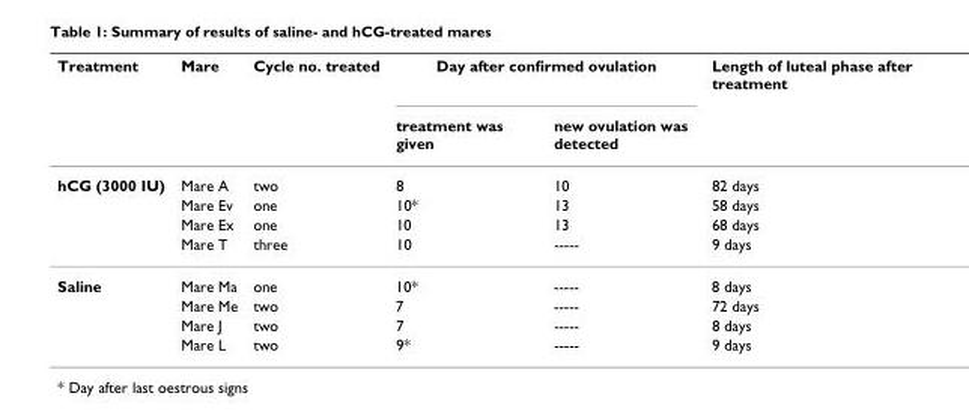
<table><thead><tr><td rowspan="2">Treatment</td><td rowspan="2">Mare</td><td rowspan="2">Cycle no. treated</td><td colspan="2">Day after confirmed ovulation</td><td rowspan="2">Length of luteal phase after treatment</td></tr><tr><td>treatment was given</td><td>new ovulation was detected</td></tr></thead><tbody><tr><td rowspan="4">hCG (3000 IU)</td><td>Mare A</td><td>two</td><td>8</td><td>10</td><td>82 days</td></tr><tr><td>Mare Ev</td><td>one</td><td>10*</td><td>13</td><td>58 days</td></tr><tr><td>Mare Ex</td><td>one</td><td>10</td><td>13</td><td>68 days</td></tr><tr><td>Mare T</td><td>three</td><td>10</td><td>-----</td><td>9 days</td></tr><tr><td rowspan="4">Saline</td><td>Mare Ma</td><td>one</td><td>10*</td><td>-----</td><td>8 days</td></tr><tr><td>Mare Me</td><td>two</td><td>7</td><td>-----</td><td>72 days</td></tr><tr><td>Mare J</td><td>two</td><td>7</td><td>-----</td><td>8 days</td></tr><tr><td>Mare L</td><td>two</td><td>9*</td><td>-----</td><td>9 days</td></tr></tbody></table>